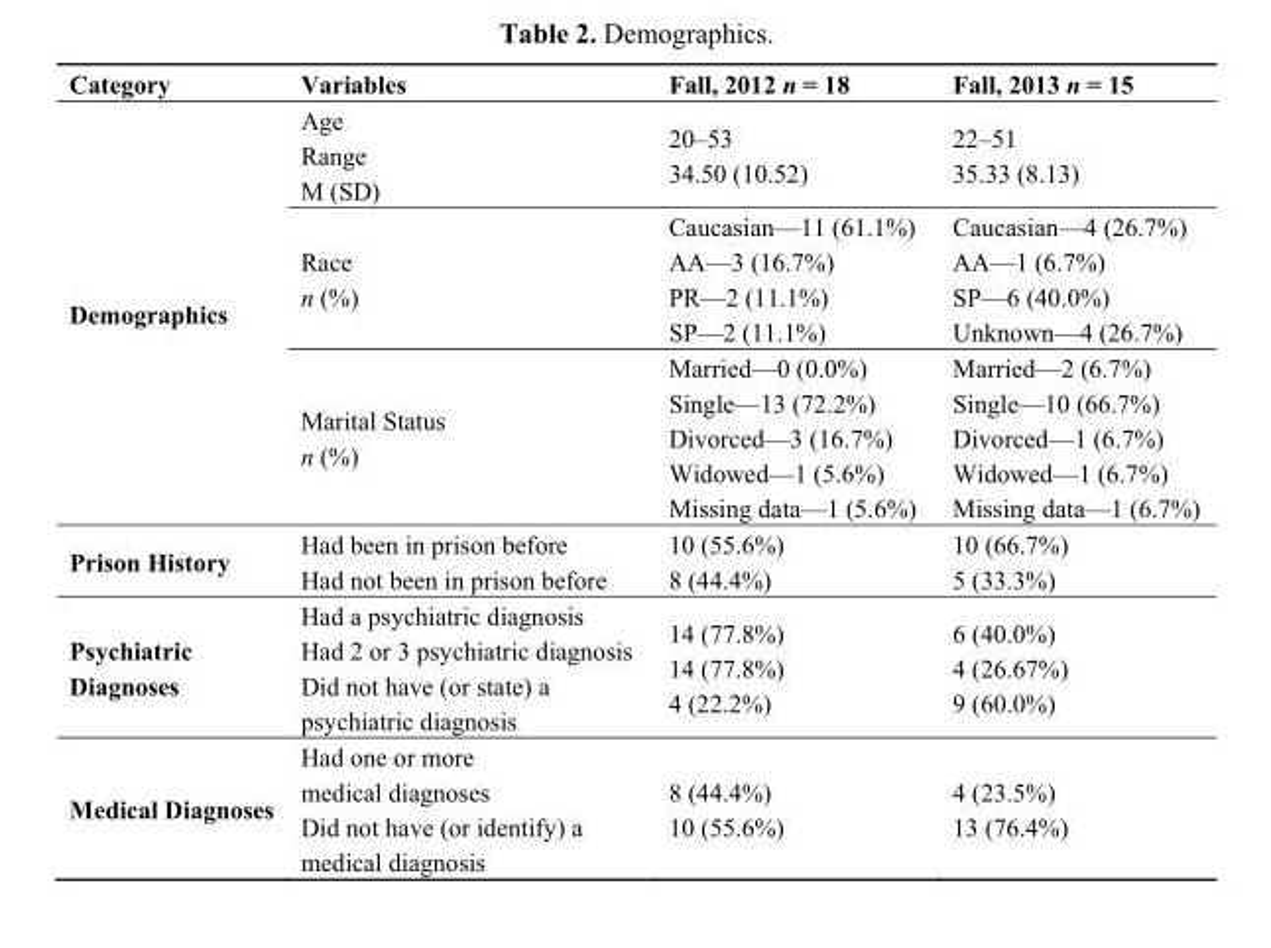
<table><thead><tr><td>Category</td><td>Variables</td><td>Fall, 2012 n = 18</td><td>Fall, 2013 n = 15</td></tr></thead><tbody><tr><td rowspan="3">Demographics</td><td>Age Range M (SD)</td><td>20–53 34.50 (10.52)</td><td>22–51 35.33 (8.13)</td></tr><tr><td>Race n (%)</td><td>Caucasian—11 (61.1%) AA—3 (16.7%) PR—2 (11.1%) SP—2 (11.1%)</td><td>Caucasian—4 (26.7%) AA—1 (6.7%) SP—6 (40.0%) Unknown—4 (26.7%)</td></tr><tr><td>Marital Status n (%)</td><td>Married—0 (0.0%) Single—13 (72.2%) Divorced—3 (16.7%) Widowed—1 (5.6%) Missing data—1 (5.6%)</td><td>Married—2 (6.7%) Single—10 (66.7%) Divorced—1 (6.7%) Widowed—1 (6.7%) Missing data—1 (6.7%)</td></tr><tr><td>Prison History</td><td>Had been in prison before Had not been in prison before</td><td>10 (55.6%) 8 (44.4%)</td><td>10 (66.7%) 5 (33.3%)</td></tr><tr><td>Psychiatric Diagnoses</td><td>Had a psychiatric diagnosis Had 2 or 3 psychiatric diagnosis Did not have (or state) a psychiatric diagnosis</td><td>14 (77.8%) 14 (77.8%) 4 (22.2%)</td><td>6 (40.0%) 4 (26.67%) 9 (60.0%)</td></tr><tr><td>Medical Diagnoses</td><td>Had one or more medical diagnoses Did not have (or identify) a medical diagnosis</td><td>8 (44.4%) 10 (55.6%)</td><td>4 (23.5%) 13 (76.4%)</td></tr></tbody></table>